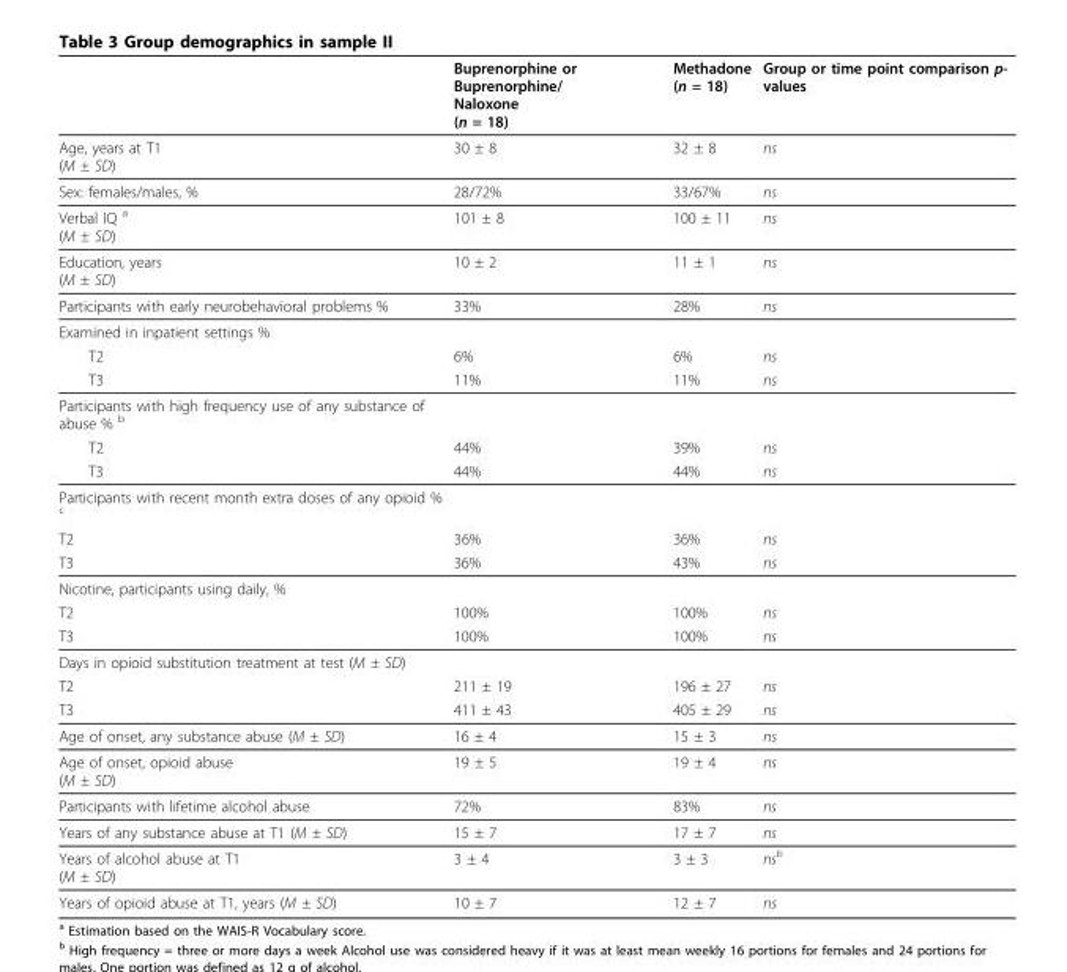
<table><thead><tr><td></td><td>Buprenorphine or Buprenorphine/ Naloxone (n = 18)</td><td>Methadone (n = 18)</td><td>Group or time point comparison p- values</td></tr></thead><tbody><tr><td>Age, years at T1 (M ± SD)</td><td>30 ± 8</td><td>32 ± 8</td><td>ns</td></tr><tr><td>Sex: females/males, %</td><td>28/72%</td><td>33/67%</td><td>ns</td></tr><tr><td>Verbal IQ <sup>a</sup> (M ± SD)</td><td>101 ± 8</td><td>100 ± 11</td><td>ns</td></tr><tr><td>Education, years (M ± SD)</td><td>10 ± 2</td><td>11 ± 1</td><td>ns</td></tr><tr><td>Participants with early neurobehavioral problems %</td><td>33%</td><td>28%</td><td>ns</td></tr><tr><td colspan="4">Examined in inpatient settings %</td></tr><tr><td>T2</td><td>6%</td><td>6%</td><td>ns</td></tr><tr><td>T3</td><td>11%</td><td>11%</td><td>ns</td></tr><tr><td colspan="4">Participants with high frequency use of any substance of abuse % <sup>b</sup></td></tr><tr><td>T2</td><td>44%</td><td>39%</td><td>ns</td></tr><tr><td>T3</td><td>44%</td><td>44%</td><td>ns</td></tr><tr><td colspan="4">Participants with recent month extra doses of any opioid % <sup>c</sup></td></tr><tr><td>T2</td><td>36%</td><td>36%</td><td>ns</td></tr><tr><td>T3</td><td>36%</td><td>43%</td><td>ns</td></tr><tr><td colspan="4">Nicotine, participants using daily, %</td></tr><tr><td>T2</td><td>100%</td><td>100%</td><td>ns</td></tr><tr><td>T3</td><td>100%</td><td>100%</td><td>ns</td></tr><tr><td colspan="4">Days in opioid substitution treatment at test (M ± SD)</td></tr><tr><td>T2</td><td>211 ± 19</td><td>196 ± 27</td><td>ns</td></tr><tr><td>T3</td><td>411 ± 43</td><td>405 ± 29</td><td>ns</td></tr><tr><td>Age of onset, any substance abuse (M ± SD)</td><td>16 ± 4</td><td>15 ± 3</td><td>ns</td></tr><tr><td>Age of onset, opioid abuse (M ± SD)</td><td>19 ± 5</td><td>19 ± 4</td><td>ns</td></tr><tr><td>Participants with lifetime alcohol abuse</td><td>72%</td><td>83%</td><td>ns</td></tr><tr><td>Years of any substance abuse at T1 (M ± SD)</td><td>15 ± 7</td><td>17 ± 7</td><td>ns</td></tr><tr><td>Years of alcohol abuse at T1 (M ± SD)</td><td>3 ± 4</td><td>3 ± 3</td><td>ns<sup>b</sup></td></tr><tr><td>Years of opioid abuse at T1, years (M ± SD)</td><td>10 ± 7</td><td>12 ± 7</td><td>ns</td></tr></tbody></table>